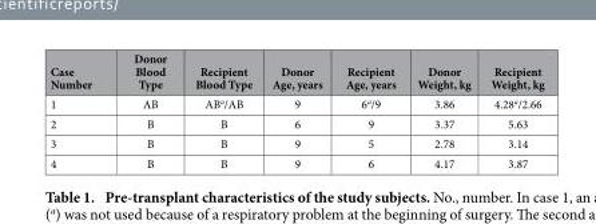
<table><thead><tr><td>Case Number</td><td>Donor Blood Type</td><td>Recipient Blood Type</td><td>Donor Age, years</td><td>Recipient Age, years</td><td>Donor Weight, kg</td><td>Recipient Weight, kg</td></tr></thead><tbody><tr><td>1</td><td>AB</td><td>AB<sup>a</sup>/AB</td><td>9</td><td>6<sup>a</sup>/9</td><td>3.86</td><td>4.28<sup>a</sup>/2.66</td></tr><tr><td>2</td><td>B</td><td>B</td><td>6</td><td>9</td><td>3.37</td><td>5.63</td></tr><tr><td>3</td><td>B</td><td>B</td><td>9</td><td>5</td><td>2.78</td><td>3.14</td></tr><tr><td>4</td><td>B</td><td>B</td><td>9</td><td>6</td><td>4.17</td><td>3.87</td></tr></tbody></table>